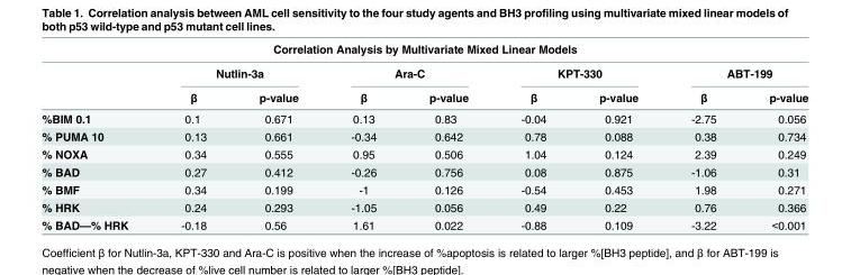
<table><thead><tr><td colspan="9">Correlation Analysis by Multivariate Mixed Linear Models</td></tr><tr><td rowspan="2"></td><td colspan="2">Nutlin-3a</td><td colspan="2">Ara-C</td><td colspan="2">KPT-330</td><td colspan="2">ABT-199</td></tr><tr><td>β</td><td>p-value</td><td>β</td><td>p-value</td><td>β</td><td>p-value</td><td>β</td><td>p-value</td></tr></thead><tbody><tr><td>%BIM 0.1</td><td>0.1</td><td>0.671</td><td>0.13</td><td>0.83</td><td>-0.04</td><td>0.921</td><td>-2.75</td><td>0.056</td></tr><tr><td>% PUMA 10</td><td>0.13</td><td>0.661</td><td>-0.34</td><td>0.642</td><td>0.78</td><td>0.088</td><td>0.38</td><td>0.734</td></tr><tr><td>% NOXA</td><td>0.34</td><td>0.555</td><td>0.95</td><td>0.506</td><td>1.04</td><td>0.124</td><td>2.39</td><td>0.249</td></tr><tr><td>% BAD</td><td>0.27</td><td>0.412</td><td>-0.26</td><td>0.756</td><td>0.08</td><td>0.875</td><td>-1.06</td><td>0.31</td></tr><tr><td>% BMF</td><td>0.34</td><td>0.199</td><td>-1</td><td>0.126</td><td>-0.54</td><td>0.453</td><td>1.98</td><td>0.271</td></tr><tr><td>% HRK</td><td>0.24</td><td>0.293</td><td>-1.05</td><td>0.056</td><td>0.49</td><td>0.22</td><td>0.76</td><td>0.366</td></tr><tr><td>% BAD—% HRK</td><td>-0.18</td><td>0.56</td><td>1.61</td><td>0.022</td><td>-0.88</td><td>0.109</td><td>-3.22</td><td>&lt;0.001</td></tr></tbody></table>